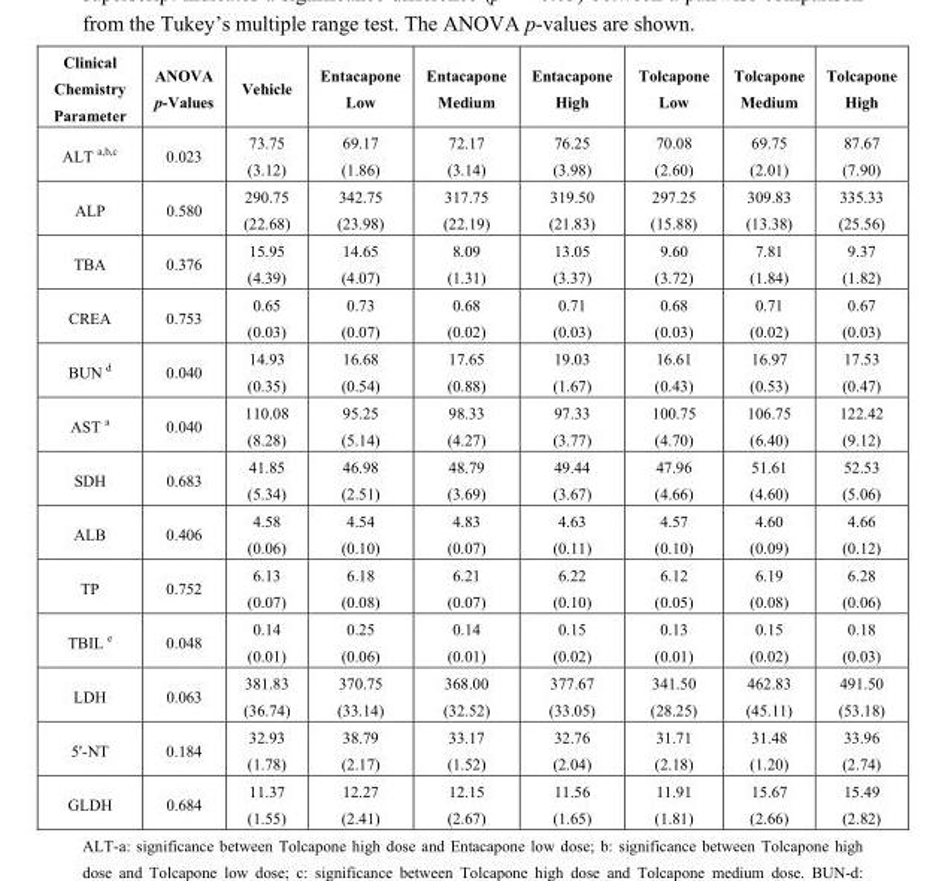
<table><thead><tr><td>Clinical Chemistry Parameter</td><td>ANOVA p-Values</td><td>Vehicle</td><td>Entacapone Low</td><td>Entacapone Medium</td><td>Entacapone High</td><td>Tolcapone Low</td><td>Tolcapone Medium</td><td>Tolcapone High</td></tr></thead><tbody><tr><td>ALT <sup>a</sup>,<sup>b</sup>,<sup>c</sup></td><td>0.023</td><td>73.75 (3.12)</td><td>69.17 (1.86)</td><td>72.17 (3.14)</td><td>76.25 (3.98)</td><td>70.08 (2.60)</td><td>69.75 (2.01)</td><td>87.67 (7.90)</td></tr><tr><td>ALP</td><td>0.580</td><td>290.75 (22.68)</td><td>342.75 (23.98)</td><td>317.75 (22.19)</td><td>319.50 (21.83)</td><td>297.25 (15.88)</td><td>309.83 (13.38)</td><td>335.33 (25.56)</td></tr><tr><td>TBA</td><td>0.376</td><td>15.95 (4.39)</td><td>14.65 (4.07)</td><td>8.09 (1.31)</td><td>13.05 (3.37)</td><td>9.60 (3.72)</td><td>7.81 (1.84)</td><td>9.37 (1.82)</td></tr><tr><td>CREA</td><td>0.753</td><td>0.65 (0.03)</td><td>0.73 (0.07)</td><td>0.68 (0.02)</td><td>0.71 (0.03)</td><td>0.68 (0.03)</td><td>0.71 (0.02)</td><td>0.67 (0.03)</td></tr><tr><td>BUN <sup>d</sup></td><td>0.040</td><td>14.93 (0.35)</td><td>16.68 (0.54)</td><td>17.65 (0.88)</td><td>19.03 (1.67)</td><td>16.61 (0.43)</td><td>16.97 (0.53)</td><td>17.53 (0.47)</td></tr><tr><td>AST <sup>a</sup></td><td>0.040</td><td>110.08 (8.28)</td><td>95.25 (5.14)</td><td>98.33 (4.27)</td><td>97.33 (3.77)</td><td>100.75 (4.70)</td><td>106.75 (6.40)</td><td>122.42 (9.12)</td></tr><tr><td>SDH</td><td>0.683</td><td>41.85 (5.34)</td><td>46.98 (2.51)</td><td>48.79 (3.69)</td><td>49.44 (3.67)</td><td>47.96 (4.66)</td><td>51.61 (4.60)</td><td>52.53 (5.06)</td></tr><tr><td>ALB</td><td>0.406</td><td>4.58 (0.06)</td><td>4.54 (0.10)</td><td>4.83 (0.07)</td><td>4.63 (0.11)</td><td>4.57 (0.10)</td><td>4.60 (0.09)</td><td>4.66 (0.12)</td></tr><tr><td>TP</td><td>0.752</td><td>6.13 (0.07)</td><td>6.18 (0.08)</td><td>6.21 (0.07)</td><td>6.22 (0.10)</td><td>6.12 (0.05)</td><td>6.19 (0.08)</td><td>6.28 (0.06)</td></tr><tr><td>TBIL <sup>e</sup></td><td>0.048</td><td>0.14 (0.01)</td><td>0.25 (0.06)</td><td>0.14 (0.01)</td><td>0.15 (0.02)</td><td>0.13 (0.01)</td><td>0.15 (0.02)</td><td>0.18 (0.03)</td></tr><tr><td>LDH</td><td>0.063</td><td>381.83 (36.74)</td><td>370.75 (33.14)</td><td>368.00 (32.52)</td><td>377.67 (33.05)</td><td>341.50 (28.25)</td><td>462.83 (45.11)</td><td>491.50 (53.18)</td></tr><tr><td>5&#x27;-NT</td><td>0.184</td><td>32.93 (1.78)</td><td>38.79 (2.17)</td><td>33.17 (1.52)</td><td>32.76 (2.04)</td><td>31.71 (2.18)</td><td>31.48 (1.20)</td><td>33.96 (2.74)</td></tr><tr><td>GLDH</td><td>0.684</td><td>11.37 (1.55)</td><td>12.27 (2.41)</td><td>12.15 (2.67)</td><td>11.56 (1.65)</td><td>11.91 (1.81)</td><td>15.67 (2.66)</td><td>15.49 (2.82)</td></tr></tbody></table>